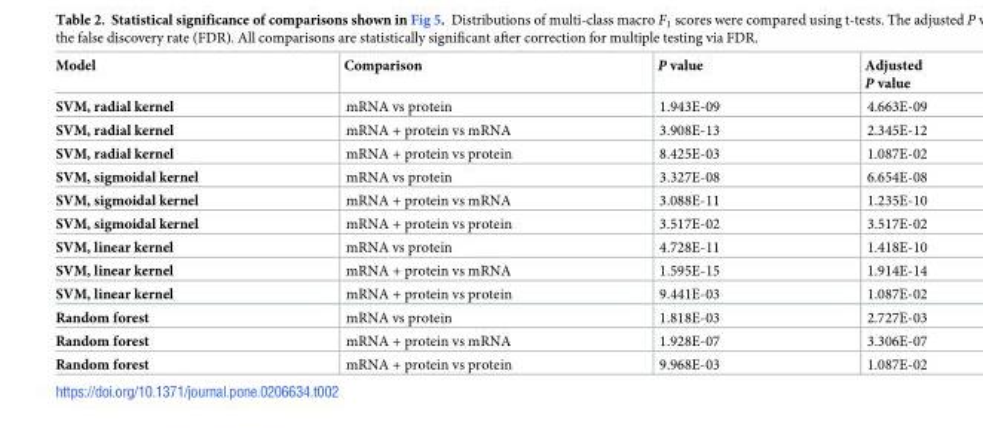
<table><thead><tr><td>Model</td><td>Comparison</td><td>P value</td><td>Adjusted P value</td></tr></thead><tbody><tr><td>SVM, radial kernel</td><td>mRNA vs protein</td><td>1.943E-09</td><td>4.663E-09</td></tr><tr><td>SVM, radial kernel</td><td>mRNA + protein vs mRNA</td><td>3.908E-13</td><td>2.345E-12</td></tr><tr><td>SVM, radial kernel</td><td>mRNA + protein vs protein</td><td>8.425E-03</td><td>1.087E-02</td></tr><tr><td>SVM, sigmoidal kernel</td><td>mRNA vs protein</td><td>3.327E-08</td><td>6.654E-08</td></tr><tr><td>SVM, sigmoidal kernel</td><td>mRNA + protein vs mRNA</td><td>3.088E-11</td><td>1.235E-10</td></tr><tr><td>SVM, sigmoidal kernel</td><td>mRNA + protein vs protein</td><td>3.517E-02</td><td>3.517E-02</td></tr><tr><td>SVM, linear kernel</td><td>mRNA vs protein</td><td>4.728E-11</td><td>1.418E-10</td></tr><tr><td>SVM, linear kernel</td><td>mRNA + protein vs mRNA</td><td>1.595E-15</td><td>1.914E-14</td></tr><tr><td>SVM, linear kernel</td><td>mRNA + protein vs protein</td><td>9.441E-03</td><td>1.087E-02</td></tr><tr><td>Random forest</td><td>mRNA vs protein</td><td>1.818E-03</td><td>2.727E-03</td></tr><tr><td>Random forest</td><td>mRNA + protein vs mRNA</td><td>1.928E-07</td><td>3.306E-07</td></tr><tr><td>Random forest</td><td>mRNA + protein vs protein</td><td>9.968E-03</td><td>1.087E-02</td></tr></tbody></table>